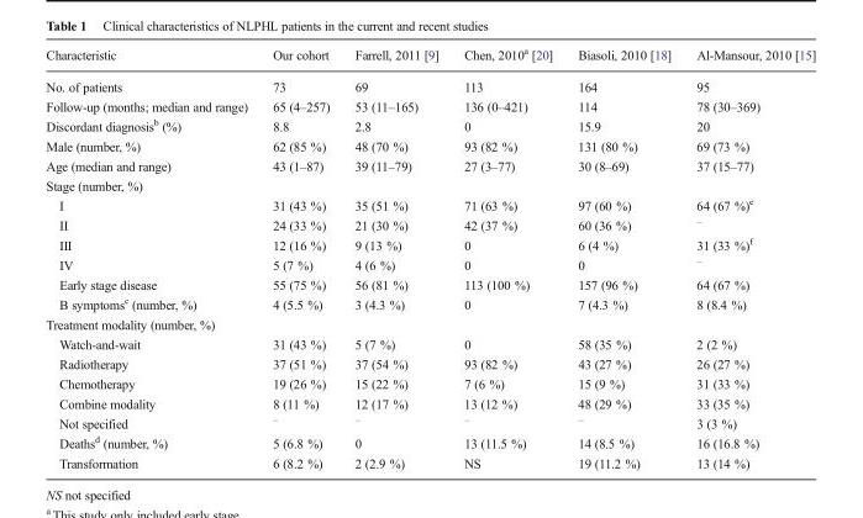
<table><thead><tr><td>Characteristic</td><td>Our cohort</td><td>Farrell, 2011 [9]</td><td>Chen, 2010<sup>a</sup> [20]</td><td>Biasoli, 2010 [18]</td><td>Al-Mansour, 2010 [15]</td></tr></thead><tbody><tr><td>No. of patients</td><td>73</td><td>69</td><td>113</td><td>164</td><td>95</td></tr><tr><td>Follow-up (months; median and range)</td><td>65 (4–257)</td><td>53 (11–165)</td><td>136 (0–421)</td><td>114</td><td>78 (30–369)</td></tr><tr><td>Discordant diagnosis<sup>b</sup> (%)</td><td>8.8</td><td>2.8</td><td>0</td><td>15.9</td><td>20</td></tr><tr><td>Male (number, %)</td><td>62 (85 %)</td><td>48 (70 %)</td><td>93 (82 %)</td><td>131 (80 %)</td><td>69 (73 %)</td></tr><tr><td>Age (median and range)</td><td>43 (1–87)</td><td>39 (11–79)</td><td>27 (3–77)</td><td>30 (8–69)</td><td>37 (15–77)</td></tr><tr><td colspan="6">Stage (number, %)</td></tr><tr><td>I</td><td>31 (43 %)</td><td>35 (51 %)</td><td>71 (63 %)</td><td>97 (60 %)</td><td>64 (67 %)<sup>e</sup></td></tr><tr><td>II</td><td>24 (33 %)</td><td>21 (30 %)</td><td>42 (37 %)</td><td>60 (36 %)</td><td><sup>–</sup></td></tr><tr><td>III</td><td>12 (16 %)</td><td>9 (13 %)</td><td>0</td><td>6 (4 %)</td><td>31 (33 %)<sup>f</sup></td></tr><tr><td>IV</td><td>5 (7 %)</td><td>4 (6 %)</td><td>0</td><td>0</td><td><sup>–</sup></td></tr><tr><td>Early stage disease</td><td>55 (75 %)</td><td>56 (81 %)</td><td>113 (100 %)</td><td>157 (96 %)</td><td>64 (67 %)</td></tr><tr><td>B symptoms<sup>c</sup> (number, %)</td><td>4 (5.5 %)</td><td>3 (4.3 %)</td><td>0</td><td>7 (4.3 %)</td><td>8 (8.4 %)</td></tr><tr><td colspan="6">Treatment modality (number, %)</td></tr><tr><td>Watch-and-wait</td><td>31 (43 %)</td><td>5 (7 %)</td><td>0</td><td>58 (35 %)</td><td>2 (2 %)</td></tr><tr><td>Radiotherapy</td><td>37 (51 %)</td><td>37 (54 %)</td><td>93 (82 %)</td><td>43 (27 %)</td><td>26 (27 %)</td></tr><tr><td>Chemotherapy</td><td>19 (26 %)</td><td>15 (22 %)</td><td>7 (6 %)</td><td>15 (9 %)</td><td>31 (33 %)</td></tr><tr><td>Combine modality</td><td>8 (11 %)</td><td>12 (17 %)</td><td>13 (12 %)</td><td>48 (29 %)</td><td>33 (35 %)</td></tr><tr><td>Not specified</td><td><sup>–</sup></td><td><sup>–</sup></td><td><sup>–</sup></td><td><sup>–</sup></td><td>3 (3 %)</td></tr><tr><td>Deaths<sup>d</sup> (number, %)</td><td>5 (6.8 %)</td><td>0</td><td>13 (11.5 %)</td><td>14 (8.5 %)</td><td>16 (16.8 %)</td></tr><tr><td>Transformation</td><td>6 (8.2 %)</td><td>2 (2.9 %)</td><td>NS</td><td>19 (11.2 %)</td><td>13 (14 %)</td></tr></tbody></table>